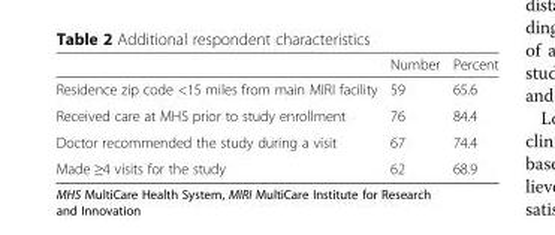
<table><thead><tr><td></td><td>Number</td><td>Percent</td></tr></thead><tbody><tr><td>Residence zip code &lt;15 miles from main MIRI facility</td><td>59</td><td>65.6</td></tr><tr><td>Received care at MHS prior to study enrollment</td><td>76</td><td>84.4</td></tr><tr><td>Doctor recommended the study during a visit</td><td>67</td><td>74.4</td></tr><tr><td>Made ≥4 visits for the study</td><td>62</td><td>68.9</td></tr></tbody></table>